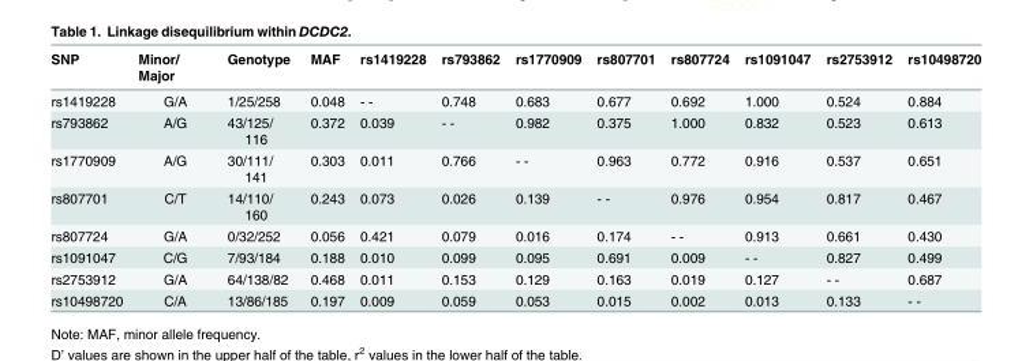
<table><thead><tr><td>SNP</td><td>Minor/ Major</td><td>Genotype</td><td>MAF</td><td>rs1419228</td><td>rs793862</td><td>rs1770909</td><td>rs807701</td><td>rs807724</td><td>rs1091047</td><td>rs2753912</td><td>rs10498720</td></tr></thead><tbody><tr><td>rs1419228</td><td>G/A</td><td>1/25/258</td><td>0.048</td><td>- -</td><td>0.748</td><td>0.683</td><td>0.677</td><td>0.692</td><td>1.000</td><td>0.524</td><td>0.884</td></tr><tr><td>rs793862</td><td>A/G</td><td>43/125/ 116</td><td>0.372</td><td>0.039</td><td>- -</td><td>0.982</td><td>0.375</td><td>1.000</td><td>0.832</td><td>0.523</td><td>0.613</td></tr><tr><td>rs1770909</td><td>A/G</td><td>30/111/ 141</td><td>0.303</td><td>0.011</td><td>0.766</td><td>- -</td><td>0.963</td><td>0.772</td><td>0.916</td><td>0.537</td><td>0.651</td></tr><tr><td>rs807701</td><td>C/T</td><td>14/110/ 160</td><td>0.243</td><td>0.073</td><td>0.026</td><td>0.139</td><td>- -</td><td>0.976</td><td>0.954</td><td>0.817</td><td>0.467</td></tr><tr><td>rs807724</td><td>G/A</td><td>0/32/252</td><td>0.056</td><td>0.421</td><td>0.079</td><td>0.016</td><td>0.174</td><td>- -</td><td>0.913</td><td>0.661</td><td>0.430</td></tr><tr><td>rs1091047</td><td>C/G</td><td>7/93/184</td><td>0.188</td><td>0.010</td><td>0.099</td><td>0.095</td><td>0.691</td><td>0.009</td><td>- -</td><td>0.827</td><td>0.499</td></tr><tr><td>rs2753912</td><td>G/A</td><td>64/138/82</td><td>0.468</td><td>0.011</td><td>0.153</td><td>0.129</td><td>0.163</td><td>0.019</td><td>0.127</td><td>- -</td><td>0.687</td></tr><tr><td>rs10498720</td><td>C/A</td><td>13/86/185</td><td>0.197</td><td>0.009</td><td>0.059</td><td>0.053</td><td>0.015</td><td>0.002</td><td>0.013</td><td>0.133</td><td>- -</td></tr></tbody></table>